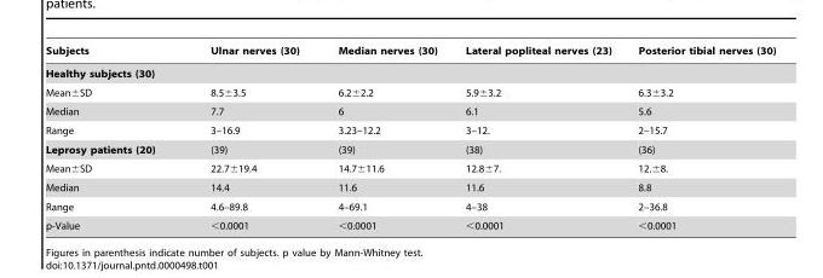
<table><thead><tr><td>Subjects</td><td>Ulnar nerves (30)</td><td>Median nerves (30)</td><td>Lateral popliteal nerves (23)</td><td>Posterior tibial nerves (30)</td></tr></thead><tbody><tr><td colspan="5">Healthy subjects (30)</td></tr><tr><td>Mean±SD</td><td>8.5±3.5</td><td>6.2±2.2</td><td>5.9±3.2</td><td>6.3±3.2</td></tr><tr><td>Median</td><td>7.7</td><td>6</td><td>6.1</td><td>5.6</td></tr><tr><td>Range</td><td>3–16.9</td><td>3.23–12.2</td><td>3–12.</td><td>2–15.7</td></tr><tr><td>Leprosy patients (20)</td><td>(39)</td><td>(39)</td><td>(38)</td><td>(36)</td></tr><tr><td>Mean±SD</td><td>22.7±19.4</td><td>14.7±11.6</td><td>12.8±7.</td><td>12.±8.</td></tr><tr><td>Median</td><td>14.4</td><td>11.6</td><td>11.6</td><td>8.8</td></tr><tr><td>Range</td><td>4.6–89.8</td><td>4–69.1</td><td>4–38</td><td>2–36.8</td></tr><tr><td>p-Value</td><td>&lt;0.0001</td><td>&lt;0.0001</td><td>&lt;0.0001</td><td>&lt;0.0001</td></tr></tbody></table>